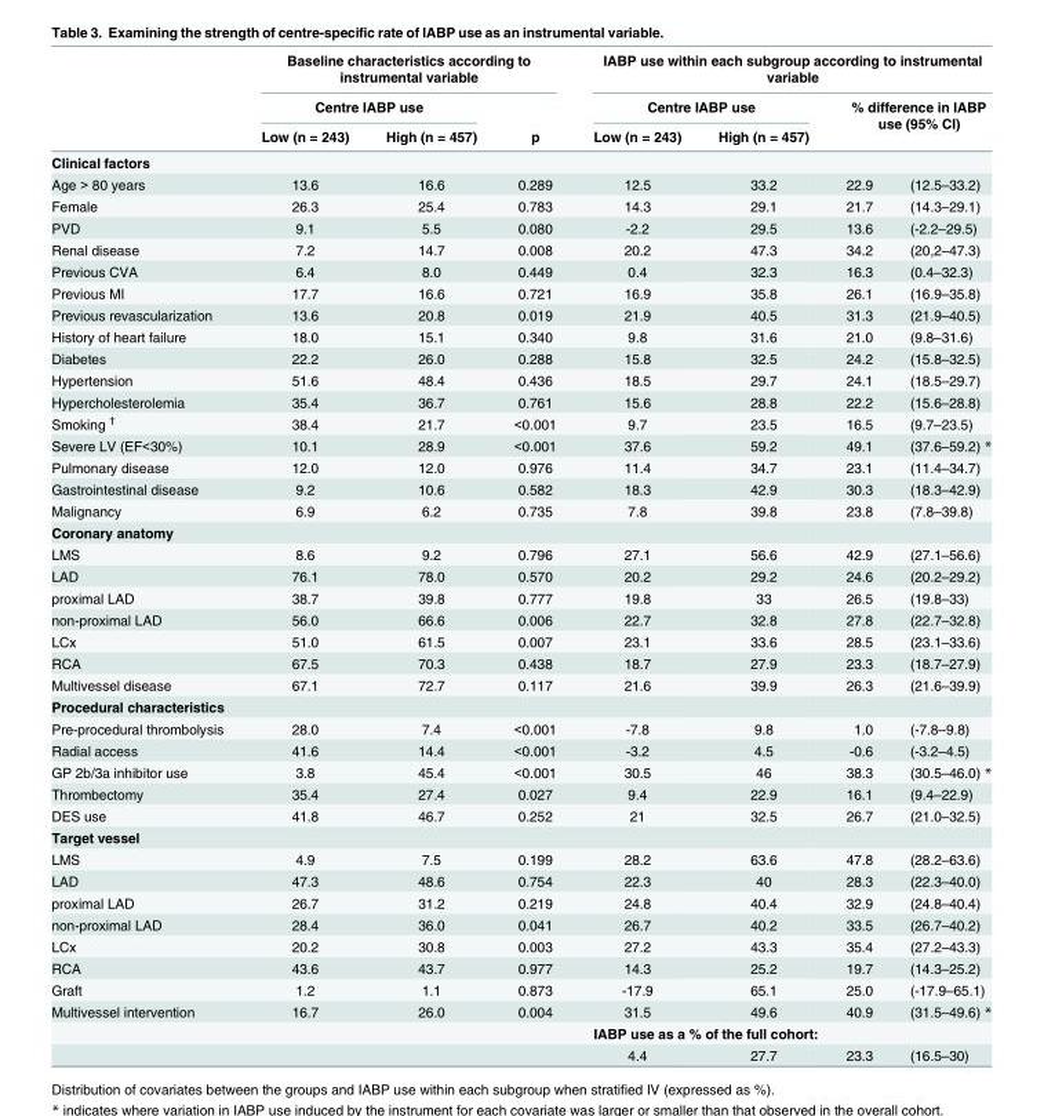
<table><thead><tr><td rowspan="4">Clinical factors</td><td colspan="3">Baseline characteristics according to instrumental variable</td><td colspan="4">IABP use within each subgroup according to instrumental variable</td></tr><tr><td colspan="2">Centre IABP use</td><td rowspan="3">p</td><td colspan="2">Centre IABP use</td><td rowspan="2" colspan="2">% difference in IABP use (95% CI)</td></tr><tr><td rowspan="2">Low (n = 243)</td><td rowspan="2">High (n = 457)</td><td rowspan="2">Low (n = 243)</td><td rowspan="2">High (n = 457)</td></tr><tr><td></td><td></td></tr></thead><tbody><tr><td>Age &gt; 80 years</td><td>13.6</td><td>16.6</td><td>0.289</td><td>12.5</td><td>33.2</td><td>22.9</td><td>(12.5–33.2)</td></tr><tr><td>Female</td><td>26.3</td><td>25.4</td><td>0.783</td><td>14.3</td><td>29.1</td><td>21.7</td><td>(14.3–29.1)</td></tr><tr><td>PVD</td><td>9.1</td><td>5.5</td><td>0.080</td><td>-2.2</td><td>29.5</td><td>13.6</td><td>(-2.2–29.5)</td></tr><tr><td>Renal disease</td><td>7.2</td><td>14.7</td><td>0.008</td><td>20.2</td><td>47.3</td><td>34.2</td><td>(20,2–47.3)</td></tr><tr><td>Previous CVA</td><td>6.4</td><td>8.0</td><td>0.449</td><td>0.4</td><td>32.3</td><td>16.3</td><td>(0.4–32.3)</td></tr><tr><td>Previous MI</td><td>17.7</td><td>16.6</td><td>0.721</td><td>16.9</td><td>35.8</td><td>26.1</td><td>(16.9–35.8)</td></tr><tr><td>Previous revascularization</td><td>13.6</td><td>20.8</td><td>0.019</td><td>21.9</td><td>40.5</td><td>31.3</td><td>(21.9–40.5)</td></tr><tr><td>History of heart failure</td><td>18.0</td><td>15.1</td><td>0.340</td><td>9.8</td><td>31.6</td><td>21.0</td><td>(9.8–31.6)</td></tr><tr><td>Diabetes</td><td>22.2</td><td>26.0</td><td>0.288</td><td>15.8</td><td>32.5</td><td>24.2</td><td>(15.8–32.5)</td></tr><tr><td>Hypertension</td><td>51.6</td><td>48.4</td><td>0.436</td><td>18.5</td><td>29.7</td><td>24.1</td><td>(18.5–29.7)</td></tr><tr><td>Hypercholesterolemia</td><td>35.4</td><td>36.7</td><td>0.761</td><td>15.6</td><td>28.8</td><td>22.2</td><td>(15.6–28.8)</td></tr><tr><td>Smoking <sup>†</sup></td><td>38.4</td><td>21.7</td><td>&lt;0.001</td><td>9.7</td><td>23.5</td><td>16.5</td><td>(9.7–23.5)</td></tr><tr><td>Severe LV (EF&lt;30%)</td><td>10.1</td><td>28.9</td><td>&lt;0.001</td><td>37.6</td><td>59.2</td><td>49.1</td><td>(37.6–59.2) *</td></tr><tr><td>Pulmonary disease</td><td>12.0</td><td>12.0</td><td>0.976</td><td>11.4</td><td>34.7</td><td>23.1</td><td>(11.4–34.7)</td></tr><tr><td>Gastrointestinal disease</td><td>9.2</td><td>10.6</td><td>0.582</td><td>18.3</td><td>42.9</td><td>30.3</td><td>(18.3–42.9)</td></tr><tr><td>Malignancy</td><td>6.9</td><td>6.2</td><td>0.735</td><td>7.8</td><td>39.8</td><td>23.8</td><td>(7.8–39.8)</td></tr><tr><td colspan="8">Coronary anatomy</td></tr><tr><td>LMS</td><td>8.6</td><td>9.2</td><td>0.796</td><td>27.1</td><td>56.6</td><td>42.9</td><td>(27.1–56.6)</td></tr><tr><td>LAD</td><td>76.1</td><td>78.0</td><td>0.570</td><td>20.2</td><td>29.2</td><td>24.6</td><td>(20.2–29.2)</td></tr><tr><td>proximal LAD</td><td>38.7</td><td>39.8</td><td>0.777</td><td>19.8</td><td>33</td><td>26.5</td><td>(19.8–33)</td></tr><tr><td>non-proximal LAD</td><td>56.0</td><td>66.6</td><td>0.006</td><td>22.7</td><td>32.8</td><td>27.8</td><td>(22.7–32.8)</td></tr><tr><td>LCx</td><td>51.0</td><td>61.5</td><td>0.007</td><td>23.1</td><td>33.6</td><td>28.5</td><td>(23.1–33.6)</td></tr><tr><td>RCA</td><td>67.5</td><td>70.3</td><td>0.438</td><td>18.7</td><td>27.9</td><td>23.3</td><td>(18.7–27.9)</td></tr><tr><td>Multivessel disease</td><td>67.1</td><td>72.7</td><td>0.117</td><td>21.6</td><td>39.9</td><td>26.3</td><td>(21.6–39.9)</td></tr><tr><td colspan="8">Procedural characteristics</td></tr><tr><td>Pre-procedural thrombolysis</td><td>28.0</td><td>7.4</td><td>&lt;0.001</td><td>-7.8</td><td>9.8</td><td>1.0</td><td>(-7.8–9.8)</td></tr><tr><td>Radial access</td><td>41.6</td><td>14.4</td><td>&lt;0.001</td><td>-3.2</td><td>4.5</td><td>-0.6</td><td>(-3.2–4.5)</td></tr><tr><td>GP 2b/3a inhibitor use</td><td>3.8</td><td>45.4</td><td>&lt;0.001</td><td>30.5</td><td>46</td><td>38.3</td><td>(30.5–46.0) *</td></tr><tr><td>Thrombectomy</td><td>35.4</td><td>27.4</td><td>0.027</td><td>9.4</td><td>22.9</td><td>16.1</td><td>(9.4–22.9)</td></tr><tr><td>DES use</td><td>41.8</td><td>46.7</td><td>0.252</td><td>21</td><td>32.5</td><td>26.7</td><td>(21.0–32.5)</td></tr><tr><td colspan="8">Target vessel</td></tr><tr><td>LMS</td><td>4.9</td><td>7.5</td><td>0.199</td><td>28.2</td><td>63.6</td><td>47.8</td><td>(28.2–63.6)</td></tr><tr><td>LAD</td><td>47.3</td><td>48.6</td><td>0.754</td><td>22.3</td><td>40</td><td>28.3</td><td>(22.3–40.0)</td></tr><tr><td>proximal LAD</td><td>26.7</td><td>31.2</td><td>0.219</td><td>24.8</td><td>40.4</td><td>32.9</td><td>(24.8–40.4)</td></tr><tr><td>non-proximal LAD</td><td>28.4</td><td>36.0</td><td>0.041</td><td>26.7</td><td>40.2</td><td>33.5</td><td>(26.7–40.2)</td></tr><tr><td>LCx</td><td>20.2</td><td>30.8</td><td>0.003</td><td>27.2</td><td>43.3</td><td>35.4</td><td>(27.2–43.3)</td></tr><tr><td>RCA</td><td>43.6</td><td>43.7</td><td>0.977</td><td>14.3</td><td>25.2</td><td>19.7</td><td>(14.3–25.2)</td></tr><tr><td>Graft</td><td>1.2</td><td>1.1</td><td>0.873</td><td>-17.9</td><td>65.1</td><td>25.0</td><td>(-17.9–65.1)</td></tr><tr><td rowspan="3">Multivessel intervention</td><td>16.7</td><td>26.0</td><td>0.004</td><td>31.5</td><td>49.6</td><td>40.9</td><td>(31.5–49.6) *</td></tr><tr><td></td><td></td><td></td><td colspan="4">IABP use as a % of the full cohort:</td></tr><tr><td></td><td></td><td></td><td>4.4</td><td>27.7</td><td>23.3</td><td>(16.5–30)</td></tr></tbody></table>